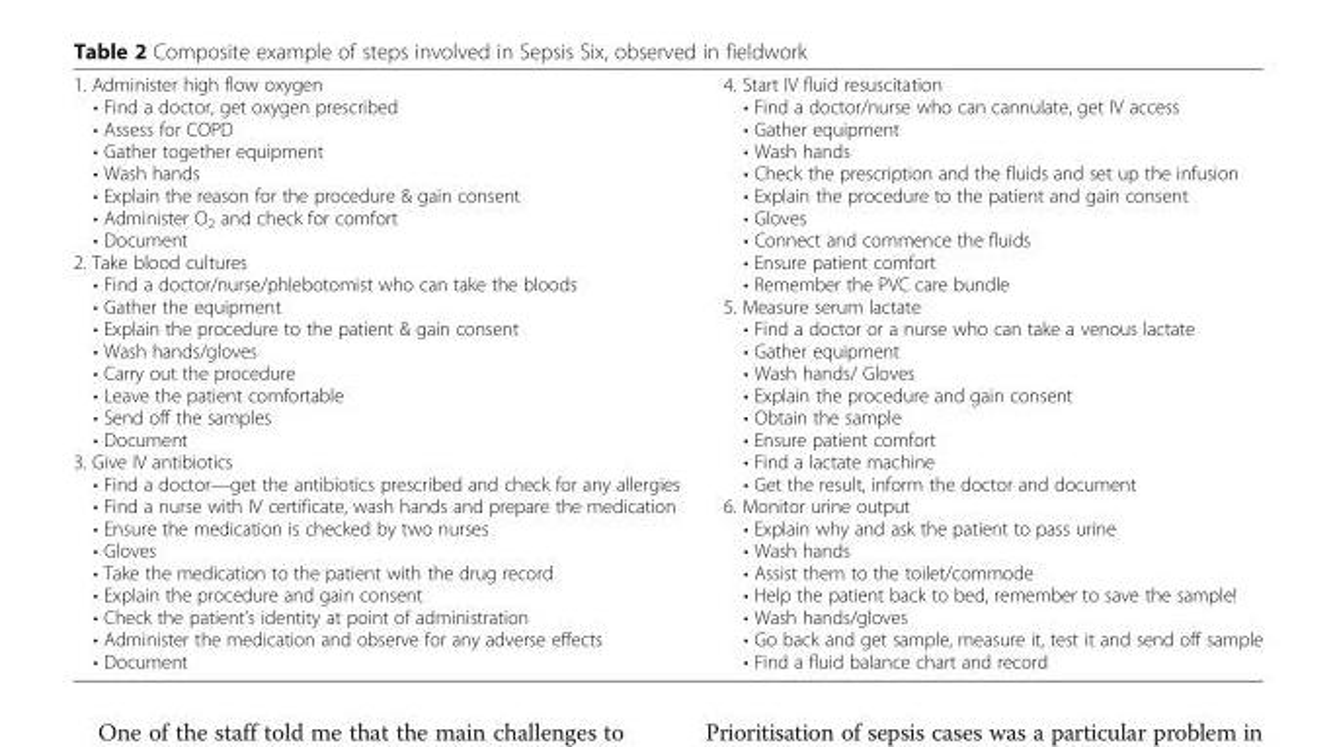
<table><tbody><tr><td>1. Administer high flow oxygen • Find a doctor, get oxygen prescribed • Assess for COPD • Gather together equipment • Wash hands • Explain the reason for the procedure &amp; gain consent • Administer O<sub>2</sub> and check for comfort • Document 2. Take blood cultures • Find a doctor/nurse/phlebotomist who can take the bloods • Gather the equipment • Explain the procedure to the patient &amp; gain consent • Wash hands/gloves • Carry out the procedure • Leave the patient comfortable • Send off the samples • Document 3. Give IV antibiotics • Find a doctor—get the antibiotics prescribed and check for any allergies • Find a nurse with IV certificate, wash hands and prepare the medication • Ensure the medication is checked by two nurses • Gloves • Take the medication to the patient with the drug record • Explain the procedure and gain consent • Check the patient’s identity at point of administration • Administer the medication and observe for any adverse effects • Document</td><td>4. Start IV fluid resuscitation • Find a doctor/nurse who can cannulate, get IV access • Gather equipment • Wash hands • Check the prescription and the fluids and set up the infusion • Explain the procedure to the patient and gain consent • Gloves • Connect and commence the fluids • Ensure patient comfort • Remember the PVC care bundle 5. Measure serum lactate • Find a doctor or a nurse who can take a venous lactate • Gather equipment • Wash hands/ Gloves • Explain the procedure and gain consent • Obtain the sample • Ensure patient comfort • Find a lactate machine • Get the result, inform the doctor and document 6. Monitor urine output • Explain why and ask the patient to pass urine • Wash hands • Assist them to the toilet/commode • Help the patient back to bed, remember to save the sample! • Wash hands/gloves • Go back and get sample, measure it, test it and send off sample • Find a fluid balance chart and record</td></tr></tbody></table>